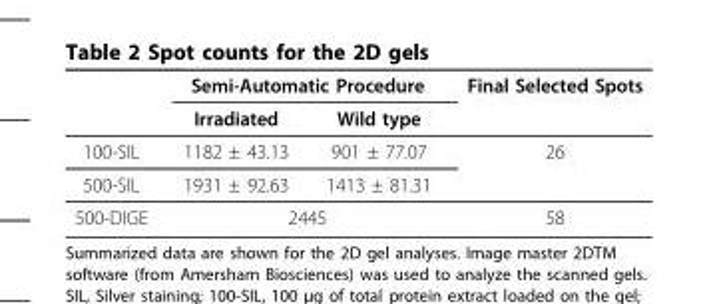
<table><thead><tr><td rowspan="2"></td><td colspan="2">Semi-Automatic Procedure</td><td rowspan="2">Final Selected Spots</td></tr><tr><td>Irradiated</td><td>Wild type</td></tr></thead><tbody><tr><td>100-SIL</td><td>1182 ± 43.13</td><td>901 ± 77.07</td><td>26</td></tr><tr><td>500-SIL</td><td>1931 ± 92.63</td><td>1413 ± 81.31</td><td></td></tr><tr><td>500-DIGE</td><td colspan="2">2445</td><td>58</td></tr></tbody></table>